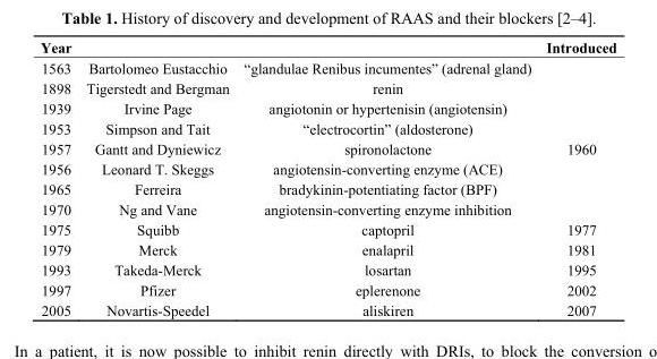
<table><thead><tr><td>Year</td><td></td><td></td><td>Introduced</td></tr></thead><tbody><tr><td>1563</td><td>Bartolomeo Eustacchio</td><td>“glandulae Renibus incumentes” (adrenal gland)</td><td></td></tr><tr><td>1898</td><td>Tigerstedt and Bergman</td><td>renin</td><td></td></tr><tr><td>1939</td><td>Irvine Page</td><td>angiotonin or hypertenisin (angiotensin)</td><td></td></tr><tr><td>1953</td><td>Simpson and Tait</td><td>“electrocortin” (aldosterone)</td><td></td></tr><tr><td>1957</td><td>Gantt and Dyniewicz</td><td>spironolactone</td><td>1960</td></tr><tr><td>1956</td><td>Leonard T. Skeggs</td><td>angiotensin-converting enzyme (ACE)</td><td></td></tr><tr><td>1965</td><td>Ferreira</td><td>bradykinin-potentiating factor (BPF)</td><td></td></tr><tr><td>1970</td><td>Ng and Vane</td><td>angiotensin-converting enzyme inhibition</td><td></td></tr><tr><td>1975</td><td>Squibb</td><td>captopril</td><td>1977</td></tr><tr><td>1979</td><td>Merck</td><td>enalapril</td><td>1981</td></tr><tr><td>1993</td><td>Takeda-Merck</td><td>losartan</td><td>1995</td></tr><tr><td>1997</td><td>Pfizer</td><td>eplerenone</td><td>2002</td></tr><tr><td>2005</td><td>Novartis-Speedel</td><td>aliskiren</td><td>2007</td></tr></tbody></table>